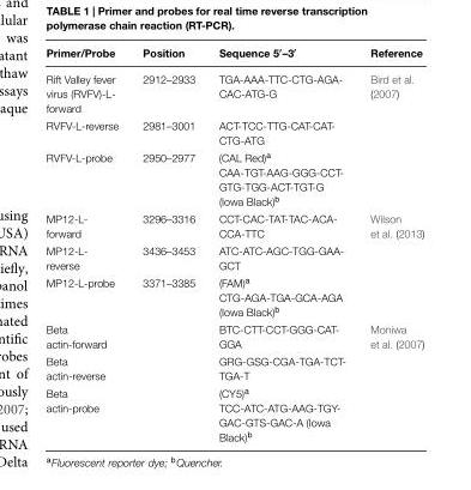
<table><thead><tr><td>Primer/Probe</td><td>Position</td><td>Sequence 5′–3′</td><td>Reference</td></tr></thead><tbody><tr><td>Rift Valley fever virus (RVFV)-L- forward</td><td>2912–2933</td><td>TGA-AAA-TTC-CTG-AGA- CAC-ATG-G</td><td>Bird et al. (2007)</td></tr><tr><td>RVFV-L-reverse</td><td>2981–3001</td><td>ACT-TCC-TTG-CAT-CAT- CTG-ATG</td><td></td></tr><tr><td>RVFV-L-probe</td><td>2950–2977</td><td>(CAL Red)<sup>a</sup> CAA-TGT-AAG-GGG-CCT- GTG-TGG-ACT-TGT-G (Iowa Black)<sup>b</sup></td><td></td></tr><tr><td>MP12-L- forward</td><td>3296–3316</td><td>CCT-CAC-TAT-TAC-ACA- CCA-TTC</td><td>Wilson et al. (2013)</td></tr><tr><td>MP12-L- reverse</td><td>3436–3453</td><td>ATC-ATC-AGC-TGG-GAA- GCT</td><td></td></tr><tr><td>MP12-L-probe</td><td>3371–3385</td><td>(FAM)<sup>a</sup> CTG-AGA-TGA-GCA-AGA (Iowa Black)<sup>b</sup></td><td></td></tr><tr><td>Beta actin-forward</td><td></td><td>BTC-CTT-CCT-GGG-CAT- GGA</td><td>Moniwa et al. (2007)</td></tr><tr><td>Beta actin-reverse</td><td></td><td>GRG-GSG-CGA-TGA-TCT- TGA-T</td><td></td></tr><tr><td>Beta actin-probe</td><td></td><td>(CY5)<sup>a</sup> TCC-ATC-ATG-AAG-TGY- GAC-GTS-GAC-A (Iowa Black)<sup>b</sup></td><td></td></tr></tbody></table>